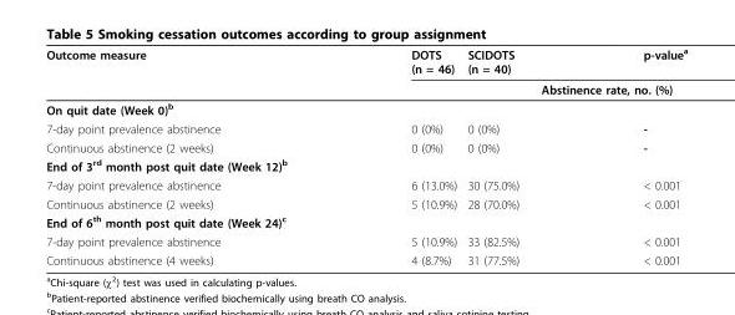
<table><thead><tr><td rowspan="2">Outcome measure</td><td>DOTS (n = 46)</td><td>SCIDOTS (n = 40)</td><td>p-value<sup>a</sup></td></tr><tr><td colspan="3">Abstinence rate, no. (%)</td></tr></thead><tbody><tr><td colspan="4">On quit date (Week 0)<sup>b</sup></td></tr><tr><td>7-day point prevalence abstinence</td><td>0 (0%)</td><td>0 (0%)</td><td>-</td></tr><tr><td>Continuous abstinence (2 weeks)</td><td>0 (0%)</td><td>0 (0%)</td><td>-</td></tr><tr><td colspan="4">End of 3<sup>rd</sup> month post quit date (Week 12)<sup>b</sup></td></tr><tr><td>7-day point prevalence abstinence</td><td>6 (13.0%)</td><td>30 (75.0%)</td><td>&lt; 0.001</td></tr><tr><td>Continuous abstinence (2 weeks)</td><td>5 (10.9%)</td><td>28 (70.0%)</td><td>&lt; 0.001</td></tr><tr><td colspan="4">End of 6<sup>th</sup> month post quit date (Week 24)<sup>c</sup></td></tr><tr><td>7-day point prevalence abstinence</td><td>5 (10.9%)</td><td>33 (82.5%)</td><td>&lt; 0.001</td></tr><tr><td>Continuous abstinence (4 weeks)</td><td>4 (8.7%)</td><td>31 (77.5%)</td><td>&lt; 0.001</td></tr></tbody></table>